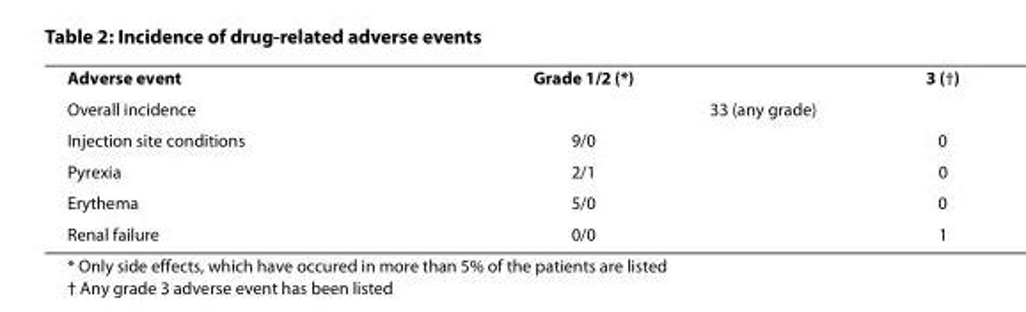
<table><tbody><tr><td>Adverse event</td><td>Grade 1/2 (*)</td><td>3 (†)</td></tr><tr><td>Overall incidence</td><td colspan="2">33 (any grade)</td></tr><tr><td>Injection site conditions</td><td>9/0</td><td>0</td></tr><tr><td>Pyrexia</td><td>2/1</td><td>0</td></tr><tr><td>Erythema</td><td>5/0</td><td>0</td></tr><tr><td>Renal failure</td><td>0/0</td><td>1</td></tr></tbody></table>